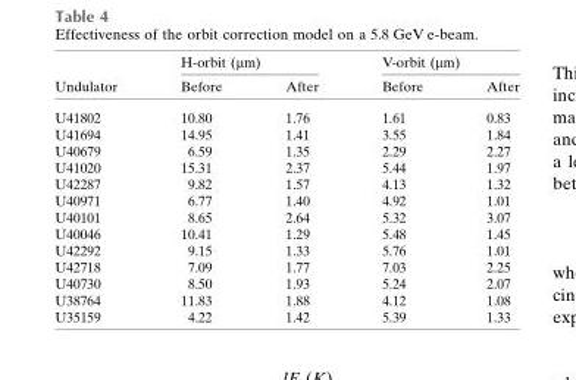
<table><thead><tr><td rowspan="2">Undulator</td><td colspan="2">H-orbit (µm)</td><td colspan="2">V-orbit (µm)</td></tr><tr><td>Before</td><td>After</td><td>Before</td><td>After</td></tr></thead><tbody><tr><td>U41802</td><td>10.80</td><td>1.76</td><td>1.61</td><td>0.83</td></tr><tr><td>U41694</td><td>14.95</td><td>1.41</td><td>3.55</td><td>1.84</td></tr><tr><td>U40679</td><td>6.59</td><td>1.35</td><td>2.29</td><td>2.27</td></tr><tr><td>U41020</td><td>15.31</td><td>2.37</td><td>5.44</td><td>1.97</td></tr><tr><td>U42287</td><td>9.82</td><td>1.57</td><td>4.13</td><td>1.32</td></tr><tr><td>U40971</td><td>6.77</td><td>1.40</td><td>4.92</td><td>1.01</td></tr><tr><td>U40101</td><td>8.65</td><td>2.64</td><td>5.32</td><td>3.07</td></tr><tr><td>U40046</td><td>10.41</td><td>1.29</td><td>5.48</td><td>1.45</td></tr><tr><td>U42292</td><td>9.15</td><td>1.33</td><td>5.76</td><td>1.01</td></tr><tr><td>U42718</td><td>7.09</td><td>1.77</td><td>7.03</td><td>2.25</td></tr><tr><td>U40730</td><td>8.50</td><td>1.93</td><td>5.24</td><td>2.07</td></tr><tr><td>U38764</td><td>11.83</td><td>1.88</td><td>4.12</td><td>1.08</td></tr><tr><td>U35159</td><td>4.22</td><td>1.42</td><td>5.39</td><td>1.33</td></tr></tbody></table>